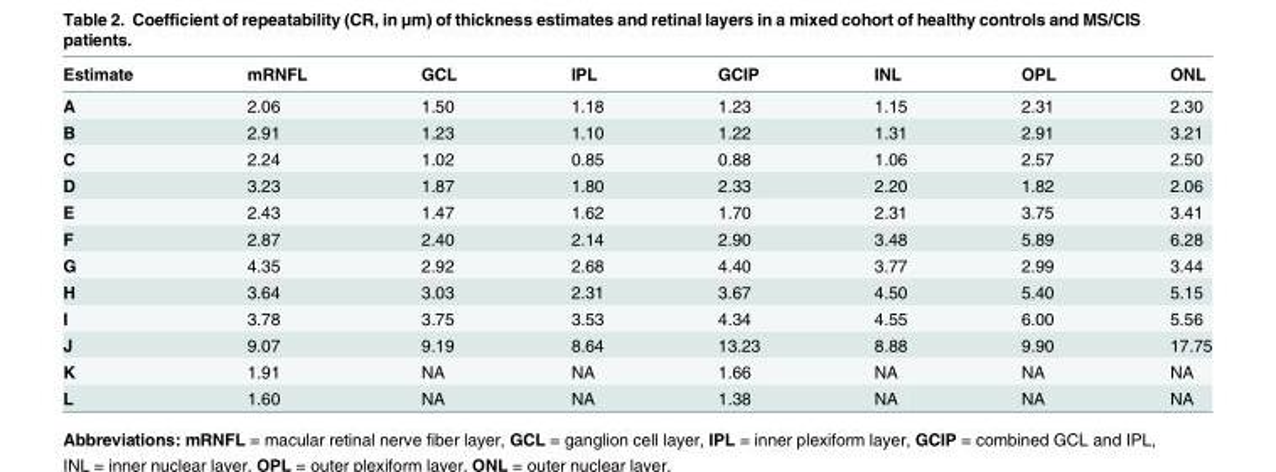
<table><thead><tr><td>Estimate</td><td>mRNFL</td><td>GCL</td><td>IPL</td><td>GCIP</td><td>INL</td><td>OPL</td><td>ONL</td></tr></thead><tbody><tr><td>A</td><td>2.06</td><td>1.50</td><td>1.18</td><td>1.23</td><td>1.15</td><td>2.31</td><td>2.30</td></tr><tr><td>B</td><td>2.91</td><td>1.23</td><td>1.10</td><td>1.22</td><td>1.31</td><td>2.91</td><td>3.21</td></tr><tr><td>C</td><td>2.24</td><td>1.02</td><td>0.85</td><td>0.88</td><td>1.06</td><td>2.57</td><td>2.50</td></tr><tr><td>D</td><td>3.23</td><td>1.87</td><td>1.80</td><td>2.33</td><td>2.20</td><td>1.82</td><td>2.06</td></tr><tr><td>E</td><td>2.43</td><td>1.47</td><td>1.62</td><td>1.70</td><td>2.31</td><td>3.75</td><td>3.41</td></tr><tr><td>F</td><td>2.87</td><td>2.40</td><td>2.14</td><td>2.90</td><td>3.48</td><td>5.89</td><td>6.28</td></tr><tr><td>G</td><td>4.35</td><td>2.92</td><td>2.68</td><td>4.40</td><td>3.77</td><td>2.99</td><td>3.44</td></tr><tr><td>H</td><td>3.64</td><td>3.03</td><td>2.31</td><td>3.67</td><td>4.50</td><td>5.40</td><td>5.15</td></tr><tr><td>I</td><td>3.78</td><td>3.75</td><td>3.53</td><td>4.34</td><td>4.55</td><td>6.00</td><td>5.56</td></tr><tr><td>J</td><td>9.07</td><td>9.19</td><td>8.64</td><td>13.23</td><td>8.88</td><td>9.90</td><td>17.75</td></tr><tr><td>K</td><td>1.91</td><td>NA</td><td>NA</td><td>1.66</td><td>NA</td><td>NA</td><td>NA</td></tr><tr><td>L</td><td>1.60</td><td>NA</td><td>NA</td><td>1.38</td><td>NA</td><td>NA</td><td>NA</td></tr></tbody></table>